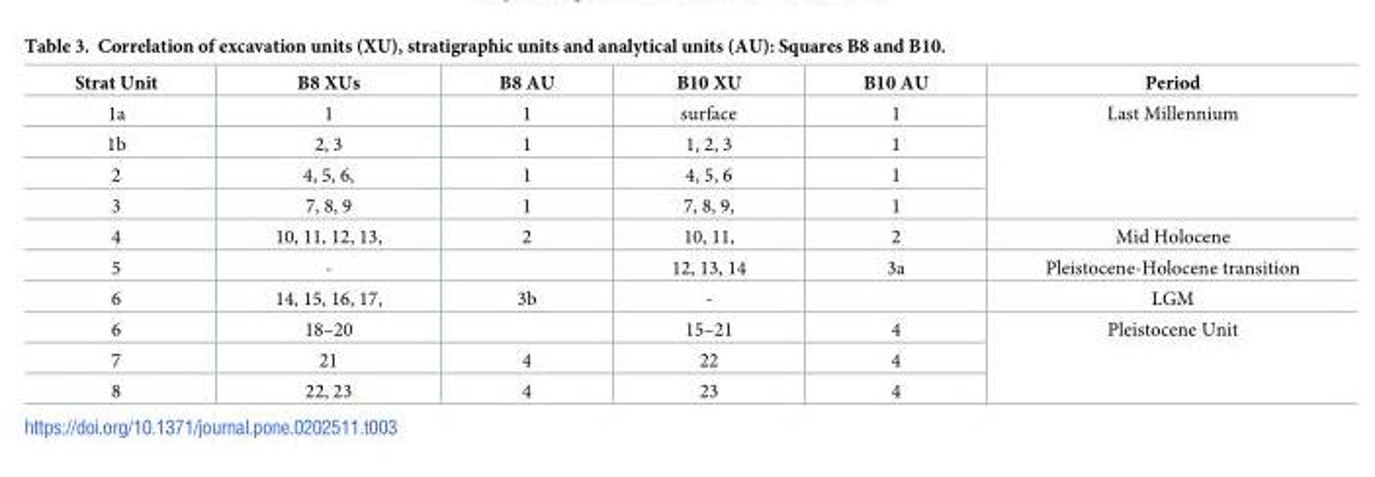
<table><thead><tr><td>Strat Unit</td><td>B8 XUs</td><td>B8 AU</td><td>B10 XU</td><td>B10 AU</td><td>Period</td></tr></thead><tbody><tr><td>1a</td><td>1</td><td>1</td><td>surface</td><td>1</td><td rowspan="4">Last Millennium</td></tr><tr><td>1b</td><td>2, 3</td><td>1</td><td>1, 2, 3</td><td>1</td></tr><tr><td>2</td><td>4, 5, 6,</td><td>1</td><td>4, 5, 6</td><td>1</td></tr><tr><td>3</td><td>7, 8, 9</td><td>1</td><td>7, 8, 9,</td><td>1</td></tr><tr><td>4</td><td>10, 11, 12, 13,</td><td>2</td><td>10, 11,</td><td>2</td><td>Mid Holocene</td></tr><tr><td>5</td><td>-</td><td></td><td>12, 13, 14</td><td>3a</td><td>Pleistocene-Holocene transition</td></tr><tr><td>6</td><td>14, 15, 16, 17,</td><td>3b</td><td>-</td><td></td><td>LGM</td></tr><tr><td>6</td><td>18–20</td><td></td><td>15–21</td><td>4</td><td rowspan="3">Pleistocene Unit</td></tr><tr><td>7</td><td>21</td><td>4</td><td>22</td><td>4</td></tr><tr><td>8</td><td>22, 23</td><td>4</td><td>23</td><td>4</td></tr></tbody></table>